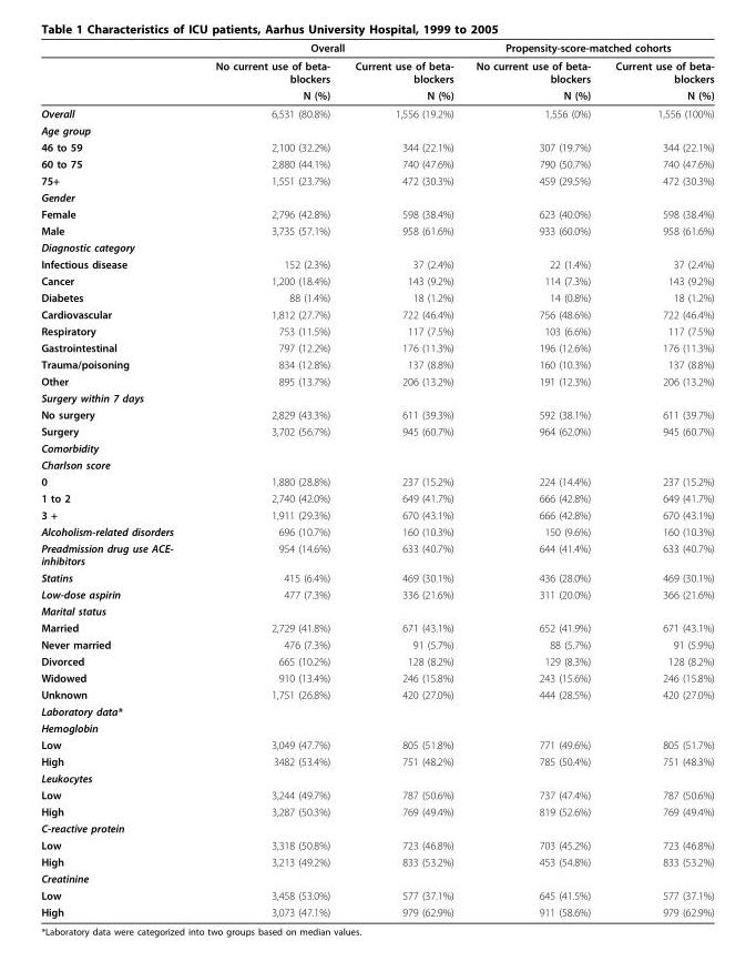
<table><thead><tr><td rowspan="2"></td><td colspan="2">Overall</td><td colspan="2">Propensity-score-matched cohorts</td></tr><tr><td>No current use of beta- blockers</td><td>Current use of beta- blockers</td><td>No current use of beta- blockers</td><td>Current use of beta- blockers</td></tr></thead><tbody><tr><td></td><td>N (%)</td><td>N (%)</td><td>N (%)</td><td>N (%)</td></tr><tr><td>Overall</td><td>6,531 (80.8%)</td><td>1,556 (19.2%)</td><td>1,556 (0%)</td><td>1,556 (100%)</td></tr><tr><td colspan="5">Age group</td></tr><tr><td>46 to 59</td><td>2,100 (32.2%)</td><td>344 (22.1%)</td><td>307 (19.7%)</td><td>344 (22.1%)</td></tr><tr><td>60 to 75</td><td>2,880 (44.1%)</td><td>740 (47.6%)</td><td>790 (50.7%)</td><td>740 (47.6%)</td></tr><tr><td>75+</td><td>1,551 (23.7%)</td><td>472 (30.3%)</td><td>459 (29.5%)</td><td>472 (30.3%)</td></tr><tr><td colspan="5">Gender</td></tr><tr><td>Female</td><td>2,796 (42.8%)</td><td>598 (38.4%)</td><td>623 (40.0%)</td><td>598 (38.4%)</td></tr><tr><td>Male</td><td>3,735 (57.1%)</td><td>958 (61.6%)</td><td>933 (60.0%)</td><td>958 (61.6%)</td></tr><tr><td colspan="5">Diagnostic category</td></tr><tr><td>Infectious disease</td><td>152 (2.3%)</td><td>37 (2.4%)</td><td>22 (1.4%)</td><td>37 (2.4%)</td></tr><tr><td>Cancer</td><td>1,200 (18.4%)</td><td>143 (9.2%)</td><td>114 (7.3%)</td><td>143 (9.2%)</td></tr><tr><td>Diabetes</td><td>88 (1.4%)</td><td>18 (1.2%)</td><td>14 (0.8%)</td><td>18 (1.2%)</td></tr><tr><td>Cardiovascular</td><td>1,812 (27.7%)</td><td>722 (46.4%)</td><td>756 (48.6%)</td><td>722 (46.4%)</td></tr><tr><td>Respiratory</td><td>753 (11.5%)</td><td>117 (7.5%)</td><td>103 (6.6%)</td><td>117 (7.5%)</td></tr><tr><td>Gastrointestinal</td><td>797 (12.2%)</td><td>176 (11.3%)</td><td>196 (12.6%)</td><td>176 (11.3%)</td></tr><tr><td>Trauma/poisoning</td><td>834 (12.8%)</td><td>137 (8.8%)</td><td>160 (10.3%)</td><td>137 (8.8%)</td></tr><tr><td>Other</td><td>895 (13.7%)</td><td>206 (13.2%)</td><td>191 (12.3%)</td><td>206 (13.2%)</td></tr><tr><td colspan="5">Surgery within 7 days</td></tr><tr><td>No surgery</td><td>2,829 (43.3%)</td><td>611 (39.3%)</td><td>592 (38.1%)</td><td>611 (39.7%)</td></tr><tr><td>Surgery</td><td>3,702 (56.7%)</td><td>945 (60.7%)</td><td>964 (62.0%)</td><td>945 (60.7%)</td></tr><tr><td colspan="5">Comorbidity</td></tr><tr><td colspan="5">Charlson score</td></tr><tr><td>0</td><td>1,880 (28.8%)</td><td>237 (15.2%)</td><td>224 (14.4%)</td><td>237 (15.2%)</td></tr><tr><td>1 to 2</td><td>2,740 (42.0%)</td><td>649 (41.7%)</td><td>666 (42.8%)</td><td>649 (41.7%)</td></tr><tr><td>3 +</td><td>1,911 (29.3%)</td><td>670 (43.1%)</td><td>666 (42.8%)</td><td>670 (43.1%)</td></tr><tr><td>Alcoholism-related disorders</td><td>696 (10.7%)</td><td>160 (10.3%)</td><td>150 (9.6%)</td><td>160 (10.3%)</td></tr><tr><td>Preadmission drug use ACE- inhibitors</td><td>954 (14.6%)</td><td>633 (40.7%)</td><td>644 (41.4%)</td><td>633 (40.7%)</td></tr><tr><td>Statins</td><td>415 (6.4%)</td><td>469 (30.1%)</td><td>436 (28.0%)</td><td>469 (30.1%)</td></tr><tr><td>Low-dose aspirin</td><td>477 (7.3%)</td><td>336 (21.6%)</td><td>311 (20.0%)</td><td>366 (21.6%)</td></tr><tr><td colspan="5">Marital status</td></tr><tr><td>Married</td><td>2,729 (41.8%)</td><td>671 (43.1%)</td><td>652 (41.9%)</td><td>671 (43.1%)</td></tr><tr><td>Never married</td><td>476 (7.3%)</td><td>91 (5.7%)</td><td>88 (5.7%)</td><td>91 (5.9%)</td></tr><tr><td>Divorced</td><td>665 (10.2%)</td><td>128 (8.2%)</td><td>129 (8.3%)</td><td>128 (8.2%)</td></tr><tr><td>Widowed</td><td>910 (13.4%)</td><td>246 (15.8%)</td><td>243 (15.6%)</td><td>246 (15.8%)</td></tr><tr><td>Unknown</td><td>1,751 (26.8%)</td><td>420 (27.0%)</td><td>444 (28.5%)</td><td>420 (27.0%)</td></tr><tr><td colspan="5">Laboratory data*</td></tr><tr><td colspan="5">Hemoglobin</td></tr><tr><td>Low</td><td>3,049 (47.7%)</td><td>805 (51.8%)</td><td>771 (49.6%)</td><td>805 (51.7%)</td></tr><tr><td>High</td><td>3482 (53.4%)</td><td>751 (48.2%)</td><td>785 (50.4%)</td><td>751 (48.3%)</td></tr><tr><td colspan="5">Leukocytes</td></tr><tr><td>Low</td><td>3,244 (49.7%)</td><td>787 (50.6%)</td><td>737 (47.4%)</td><td>787 (50.6%)</td></tr><tr><td>High</td><td>3,287 (50.3%)</td><td>769 (49.4%)</td><td>819 (52.6%)</td><td>769 (49.4%)</td></tr><tr><td colspan="5">C-reactive protein</td></tr><tr><td>Low</td><td>3,318 (50.8%)</td><td>723 (46.8%)</td><td>703 (45.2%)</td><td>723 (46.8%)</td></tr><tr><td>High</td><td>3,213 (49.2%)</td><td>833 (53.2%)</td><td>453 (54.8%)</td><td>833 (53.2%)</td></tr><tr><td colspan="5">Creatinine</td></tr><tr><td>Low</td><td>3,458 (53.0%)</td><td>577 (37.1%)</td><td>645 (41.5%)</td><td>577 (37.1%)</td></tr><tr><td>High</td><td>3,073 (47.1%)</td><td>979 (62.9%)</td><td>911 (58.6%)</td><td>979 (62.9%)</td></tr></tbody></table>